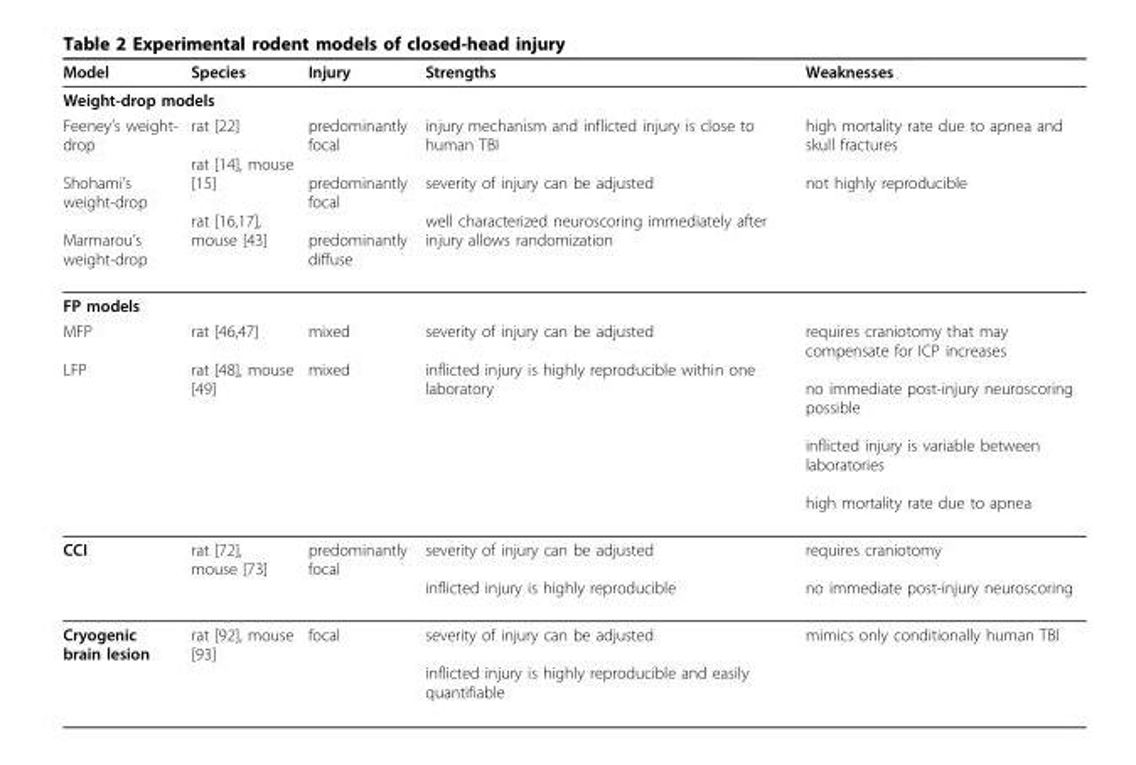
<table><thead><tr><td>Model</td><td>Species</td><td>Injury</td><td>Strengths</td><td>Weaknesses</td></tr></thead><tbody><tr><td colspan="5">Weight-drop models</td></tr><tr><td>Feeney’s weight- drop Shohami’s weight-drop Marmarou’s weight-drop</td><td>rat [22] rat [14], mouse [15] rat [16,17], mouse [43]</td><td>predominantly focal predominantly focal predominantly diffuse</td><td>injury mechanism and inflicted injury is close to human TBI severity of injury can be adjusted well characterized neuroscoring immediately after injury allows randomization</td><td>high mortality rate due to apnea and skull fractures not highly reproducible</td></tr><tr><td colspan="5">FP models</td></tr><tr><td>MFP LFP</td><td>rat [46,47] rat [48], mouse [49]</td><td>mixed mixed</td><td>severity of injury can be adjusted inflicted injury is highly reproducible within one laboratory</td><td>requires craniotomy that may compensate for ICP increases no immediate post-injury neuroscoring possible inflicted injury is variable between laboratories high mortality rate due to apnea</td></tr><tr><td>CCI</td><td>rat [72], mouse [73]</td><td>predominantly focal</td><td>severity of injury can be adjusted inflicted injury is highly reproducible</td><td>requires craniotomy no immediate post-injury neuroscoring</td></tr><tr><td>Cryogenic brain lesion</td><td>rat [92], mouse [93]</td><td>focal</td><td>severity of injury can be adjusted inflicted injury is highly reproducible and easily quantifiable</td><td>mimics only conditionally human TBI</td></tr></tbody></table>